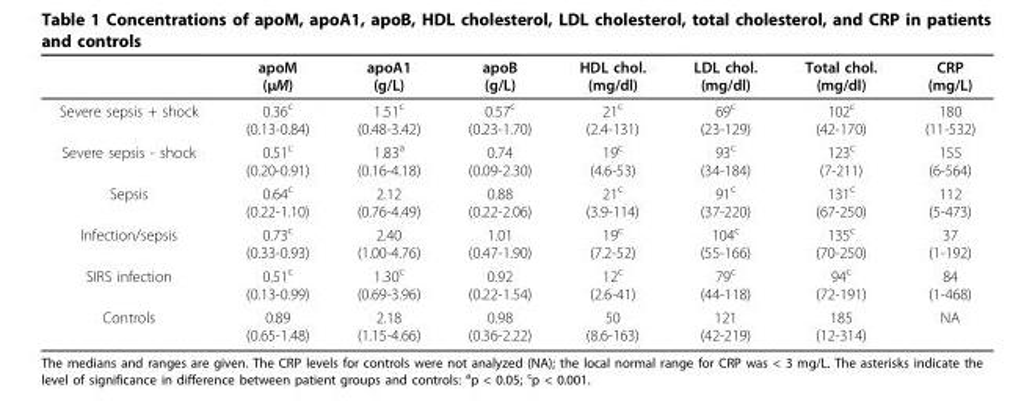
<table><thead><tr><td></td><td>apoM (μM)</td><td>apoA1 (g/L)</td><td>apoB (g/L)</td><td>HDL chol. (mg/dl)</td><td>LDL chol. (mg/dl)</td><td>Total chol. (mg/dl)</td><td>CRP (mg/L)</td></tr></thead><tbody><tr><td>Severe sepsis + shock</td><td>0.36<sup>c</sup> (0.13-0.84)</td><td>1.51<sup>c</sup> (0.48-3.42)</td><td>0.57<sup>c</sup> (0.23-1.70)</td><td>21<sup>c</sup> (2.4-131)</td><td>69<sup>c</sup> (23-129)</td><td>102<sup>c</sup> (42-170)</td><td>180 (11-532)</td></tr><tr><td>Severe sepsis - shock</td><td>0.51<sup>c</sup> (0.20-0.91)</td><td>1.83<sup>a</sup> (0.16-4.18)</td><td>0.74 (0.09-2.30)</td><td>19<sup>c</sup> (4.6-53)</td><td>93<sup>c</sup> (34-184)</td><td>123<sup>c</sup> (7-211)</td><td>155 (6-564)</td></tr><tr><td>Sepsis</td><td>0.64<sup>c</sup> (0.22-1.10)</td><td>2.12 (0.76-4.49)</td><td>0.88 (0.22-2.06)</td><td>21<sup>c</sup> (3.9-114)</td><td>91<sup>c</sup> (37-220)</td><td>131<sup>c</sup> (67-250)</td><td>112 (5-473)</td></tr><tr><td>Infection/sepsis</td><td>0.73<sup>c</sup> (0.33-0.93)</td><td>2.40 (1.00-4.76)</td><td>1.01 (0.47-1.90)</td><td>19<sup>c</sup> (7.2-52)</td><td>104<sup>c</sup> (55-166)</td><td>135<sup>c</sup> (70-250)</td><td>37 (1-192)</td></tr><tr><td>SIRS infection</td><td>0.51<sup>c</sup> (0.13-0.99)</td><td>1.30<sup>c</sup> (0.69-3.96)</td><td>0.92 (0.22-1.54)</td><td>12<sup>c</sup> (2.6-41)</td><td>79<sup>c</sup> (44-118)</td><td>94<sup>c</sup> (72-191)</td><td>84 (1-468)</td></tr><tr><td>Controls</td><td>0.89 (0.65-1.48)</td><td>2.18 (1.15-4.66)</td><td>0.98 (0.36-2.22)</td><td>50 (8.6-163)</td><td>121 (42-219)</td><td>185 (12-314)</td><td>NA</td></tr></tbody></table>